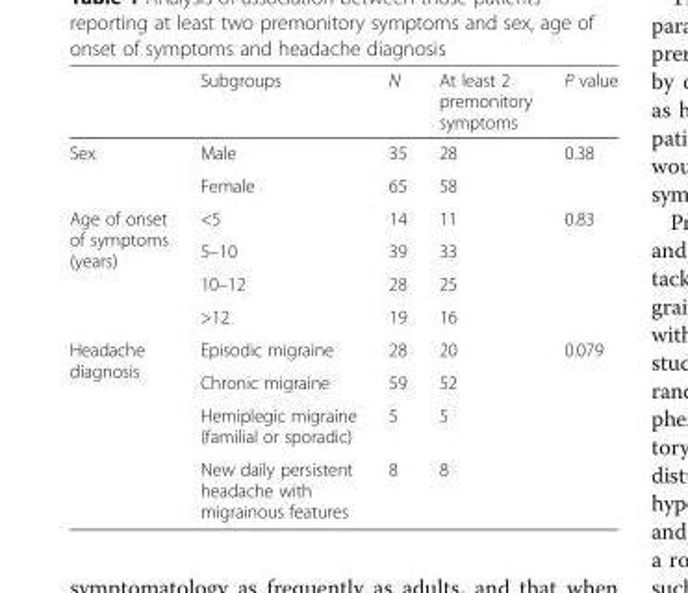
<table><thead><tr><td></td><td>Subgroups</td><td>N</td><td>At least 2 premonitory symptoms</td><td>P value</td></tr></thead><tbody><tr><td rowspan="2">Sex</td><td>Male</td><td>35</td><td>28</td><td rowspan="2">0.38</td></tr><tr><td>Female</td><td>65</td><td>58</td></tr><tr><td rowspan="4">Age of onset of symptoms (years)</td><td>&lt;5</td><td>14</td><td>11</td><td rowspan="4">0.83</td></tr><tr><td>5–10</td><td>39</td><td>33</td></tr><tr><td>10–12</td><td>28</td><td>25</td></tr><tr><td>&gt;12</td><td>19</td><td>16</td></tr><tr><td rowspan="4">Headache diagnosis</td><td>Episodic migraine</td><td>28</td><td>20</td><td rowspan="4">0.079</td></tr><tr><td>Chronic migraine</td><td>59</td><td>52</td></tr><tr><td>Hemiplegic migraine (familial or sporadic)</td><td>5</td><td>5</td></tr><tr><td>New daily persistent headache with migrainous features</td><td>8</td><td>8</td></tr></tbody></table>